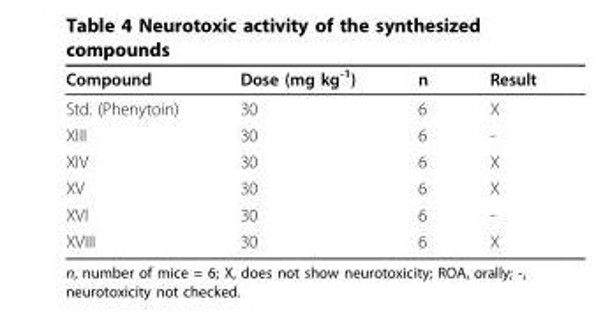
<table><thead><tr><td>Compound</td><td>Dose (mg kg<sup>-1</sup>)</td><td>n</td><td>Result</td></tr></thead><tbody><tr><td>Std. (Phenytoin)</td><td>30</td><td>6</td><td>X</td></tr><tr><td>XIII</td><td>30</td><td>6</td><td>-</td></tr><tr><td>XIV</td><td>30</td><td>6</td><td>X</td></tr><tr><td>XV</td><td>30</td><td>6</td><td>X</td></tr><tr><td>XVI</td><td>30</td><td>6</td><td>-</td></tr><tr><td>XVIII</td><td>30</td><td>6</td><td>X</td></tr></tbody></table>